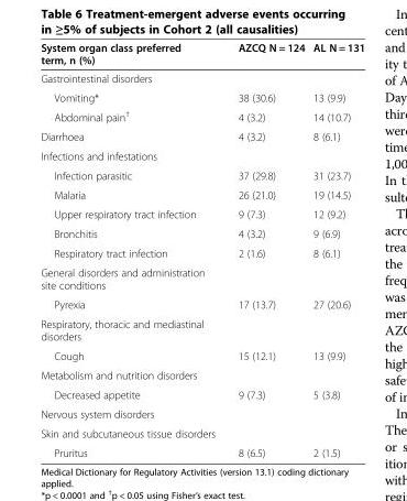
<table><thead><tr><td>System organ class preferred term, n (%)</td><td>AZCQ N = 124</td><td>AL N = 131</td></tr></thead><tbody><tr><td colspan="3">Gastrointestinal disorders</td></tr><tr><td>Vomiting*</td><td>38 (30.6)</td><td>13 (9.9)</td></tr><tr><td>Abdominal pain<sup>†</sup></td><td>4 (3.2)</td><td>14 (10.7)</td></tr><tr><td>Diarrhoea</td><td>4 (3.2)</td><td>8 (6.1)</td></tr><tr><td colspan="3">Infections and infestations</td></tr><tr><td>Infection parasitic</td><td>37 (29.8)</td><td>31 (23.7)</td></tr><tr><td>Malaria</td><td>26 (21.0)</td><td>19 (14.5)</td></tr><tr><td>Upper respiratory tract infection</td><td>9 (7.3)</td><td>12 (9.2)</td></tr><tr><td>Bronchitis</td><td>4 (3.2)</td><td>9 (6.9)</td></tr><tr><td>Respiratory tract infection</td><td>2 (1.6)</td><td>8 (6.1)</td></tr><tr><td colspan="3">General disorders and administration site conditions</td></tr><tr><td>Pyrexia</td><td>17 (13.7)</td><td>27 (20.6)</td></tr><tr><td colspan="3">Respiratory, thoracic and mediastinal disorders</td></tr><tr><td>Cough</td><td>15 (12.1)</td><td>13 (9.9)</td></tr><tr><td colspan="3">Metabolism and nutrition disorders</td></tr><tr><td>Decreased appetite</td><td>9 (7.3)</td><td>5 (3.8)</td></tr><tr><td colspan="3">Nervous system disorders</td></tr><tr><td colspan="3">Skin and subcutaneous tissue disorders</td></tr><tr><td>Pruritus</td><td>8 (6.5)</td><td>2 (1.5)</td></tr></tbody></table>